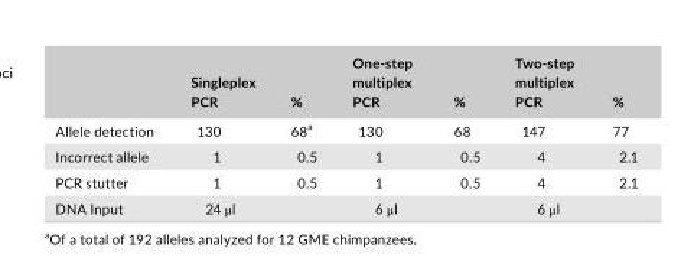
<table><thead><tr><td></td><td>Singleplex PCR</td><td>%</td><td>One- step multiplex PCR</td><td>%</td><td>Two- step multiplex PCR</td><td>%</td></tr></thead><tbody><tr><td>Allele detection</td><td>130</td><td>68<sup>a</sup></td><td>130</td><td>68</td><td>147</td><td>77</td></tr><tr><td>Incorrect allele</td><td>1</td><td>0.5</td><td>1</td><td>0.5</td><td>4</td><td>2.1</td></tr><tr><td>PCR stutter</td><td>1</td><td>0.5</td><td>1</td><td>0.5</td><td>4</td><td>2.1</td></tr><tr><td>DNA Input</td><td colspan="2">24 μl</td><td colspan="2">6 μl</td><td colspan="2">6 μl</td></tr></tbody></table>